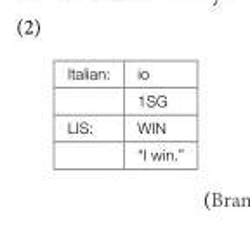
<table><tbody><tr><td rowspan="2">Italian:</td><td>io</td></tr><tr><td>1SG</td></tr><tr><td rowspan="2">LIS:</td><td>WIN</td></tr><tr><td>“I win.”</td></tr></tbody></table>